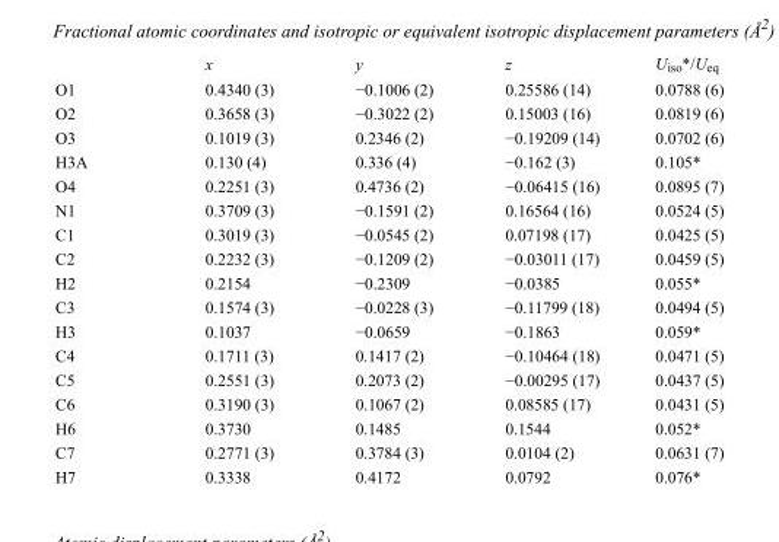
<table><thead><tr><td></td><td>x</td><td>y</td><td>z</td><td>U<sub>iso</sub>*/U<sub>eq</sub></td></tr></thead><tbody><tr><td>O1</td><td>0.4340 (3)</td><td>−0.1006 (2)</td><td>0.25586 (14)</td><td>0.0788 (6)</td></tr><tr><td>O2</td><td>0.3658 (3)</td><td>−0.3022 (2)</td><td>0.15003 (16)</td><td>0.0819 (6)</td></tr><tr><td>O3</td><td>0.1019 (3)</td><td>0.2346 (2)</td><td>−0.19209 (14)</td><td>0.0702 (6)</td></tr><tr><td>H3A</td><td>0.130 (4)</td><td>0.336 (4)</td><td>−0.162 (3)</td><td>0.105*</td></tr><tr><td>O4</td><td>0.2251 (3)</td><td>0.4736 (2)</td><td>−0.06415 (16)</td><td>0.0895 (7)</td></tr><tr><td>N1</td><td>0.3709 (3)</td><td>−0.1591 (2)</td><td>0.16564 (16)</td><td>0.0524 (5)</td></tr><tr><td>C1</td><td>0.3019 (3)</td><td>−0.0545 (2)</td><td>0.07198 (17)</td><td>0.0425 (5)</td></tr><tr><td>C2</td><td>0.2232 (3)</td><td>−0.1209 (2)</td><td>−0.03011 (17)</td><td>0.0459 (5)</td></tr><tr><td>H2</td><td>0.2154</td><td>−0.2309</td><td>−0.0385</td><td>0.055*</td></tr><tr><td>C3</td><td>0.1574 (3)</td><td>−0.0228 (3)</td><td>−0.11799 (18)</td><td>0.0494 (5)</td></tr><tr><td>H3</td><td>0.1037</td><td>−0.0659</td><td>−0.1863</td><td>0.059*</td></tr><tr><td>C4</td><td>0.1711 (3)</td><td>0.1417 (2)</td><td>−0.10464 (18)</td><td>0.0471 (5)</td></tr><tr><td>C5</td><td>0.2551 (3)</td><td>0.2073 (2)</td><td>−0.00295 (17)</td><td>0.0437 (5)</td></tr><tr><td>C6</td><td>0.3190 (3)</td><td>0.1067 (2)</td><td>0.08585 (17)</td><td>0.0431 (5)</td></tr><tr><td>H6</td><td>0.3730</td><td>0.1485</td><td>0.1544</td><td>0.052*</td></tr><tr><td>C7</td><td>0.2771 (3)</td><td>0.3784 (3)</td><td>0.0104 (2)</td><td>0.0631 (7)</td></tr><tr><td>H7</td><td>0.3338</td><td>0.4172</td><td>0.0792</td><td>0.076*</td></tr></tbody></table>